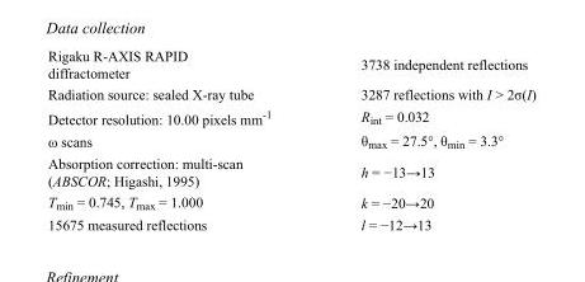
<table><tbody><tr><td>Rigaku R-AXIS RAPID diffractometer</td><td>3738 independent reflections</td></tr><tr><td>Radiation source: sealed X-ray tube</td><td>3287 reflections with I &gt; 2σ(I)</td></tr><tr><td>Detector resolution: 10.00 pixels mm<sup>-1</sup></td><td>R<sub>int</sub> = 0.032</td></tr><tr><td>ω scans</td><td>θ<sub>max</sub> = 27.5°, θ<sub>min</sub> = 3.3°</td></tr><tr><td>Absorption correction: multi-scan (ABSCOR; Higashi, 1995)</td><td>h = −13→13</td></tr><tr><td>T<sub>min</sub> = 0.745, T<sub>max</sub> = 1.000</td><td>k = −20→20</td></tr><tr><td>15675 measured reflections</td><td>l = −12→13</td></tr></tbody></table>